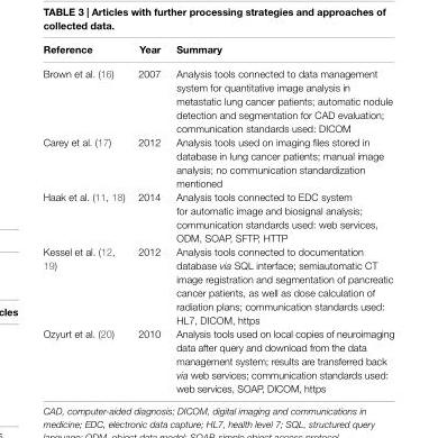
<table><thead><tr><td>Reference</td><td>Year</td><td>Summary</td></tr></thead><tbody><tr><td>Brown et al. (16)</td><td>2007</td><td>Analysis tools connected to data management system for quantitative image analysis in metastatic lung cancer patients; automatic nodule detection and segmentation for CAD evaluation; communication standards used: DICOM</td></tr><tr><td>Carey et al. (17)</td><td>2012</td><td>Analysis tools used on imaging files stored in database in lung cancer patients; manual image analysis; no communication standardization mentioned</td></tr><tr><td>Haak et al. (11, 18)</td><td>2014</td><td>Analysis tools connected to EDC system for automatic image and biosignal analysis; communication standards used: web services, ODM, SOAP, SFTP, HTTP</td></tr><tr><td>Kessel et al. (12, 19)</td><td>2012</td><td>Analysis tools connected to documentation database via SQL interface; semiautomatic CT image registration and segmentation of pancreatic cancer patients, as well as dose calculation of radiation plans; communication standards used: HL7, DICOM, https</td></tr><tr><td>Ozyurt et al. (20)</td><td>2010</td><td>Analysis tools used on local copies of neuroimaging data after query and download from the data management system; results are transferred back via web services; communication standards used: web services, SOAP, DICOM, https</td></tr></tbody></table>